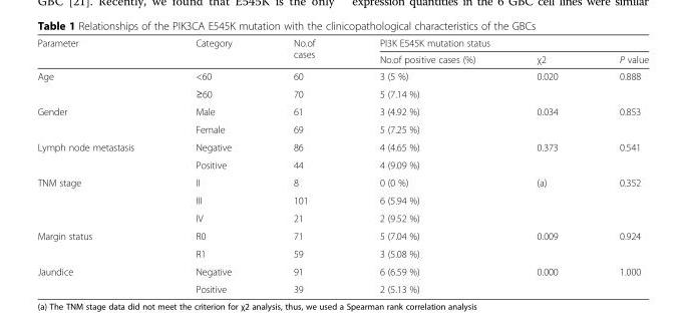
<table><thead><tr><td rowspan="2">Parameter</td><td rowspan="2">Category</td><td rowspan="2">No.of cases</td><td colspan="3">PI3K E545K mutation status</td></tr><tr><td>No.of positive cases (%)</td><td>χ2</td><td>P value</td></tr></thead><tbody><tr><td rowspan="2">Age</td><td>&lt;60</td><td>60</td><td>3 (5 %)</td><td rowspan="2">0.020</td><td rowspan="2">0.888</td></tr><tr><td>≥60</td><td>70</td><td>5 (7.14 %)</td></tr><tr><td rowspan="2">Gender</td><td>Male</td><td>61</td><td>3 (4.92 %)</td><td rowspan="2">0.034</td><td rowspan="2">0.853</td></tr><tr><td>Female</td><td>69</td><td>5 (7.25 %)</td></tr><tr><td rowspan="2">Lymph node metastasis</td><td>Negative</td><td>86</td><td>4 (4.65 %)</td><td rowspan="2">0.373</td><td rowspan="2">0.541</td></tr><tr><td>Positive</td><td>44</td><td>4 (9.09 %)</td></tr><tr><td rowspan="3">TNM stage</td><td>II</td><td>8</td><td>0 (0 %)</td><td rowspan="3">(a)</td><td rowspan="3">0.352</td></tr><tr><td>III</td><td>101</td><td>6 (5.94 %)</td></tr><tr><td>IV</td><td>21</td><td>2 (9.52 %)</td></tr><tr><td rowspan="2">Margin status</td><td>R0</td><td>71</td><td>5 (7.04 %)</td><td rowspan="2">0.009</td><td rowspan="2">0.924</td></tr><tr><td>R1</td><td>59</td><td>3 (5.08 %)</td></tr><tr><td rowspan="2">Jaundice</td><td>Negative</td><td>91</td><td>6 (6.59 %)</td><td rowspan="2">0.000</td><td rowspan="2">1.000</td></tr><tr><td>Positive</td><td>39</td><td>2 (5.13 %)</td></tr></tbody></table>